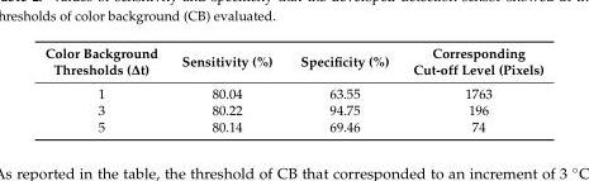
<table><thead><tr><td>Color Background Thresholds (∆t)</td><td>Sensitivity (%)</td><td>Specificity (%)</td><td>Corresponding Cut-off Level (Pixels)</td></tr></thead><tbody><tr><td>1</td><td>80.04</td><td>63.55</td><td>1763</td></tr><tr><td>3</td><td>80.22</td><td>94.75</td><td>196</td></tr><tr><td>5</td><td>80.14</td><td>69.46</td><td>74</td></tr></tbody></table>